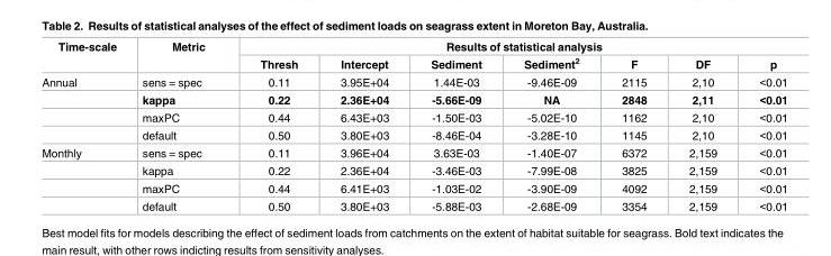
<table><thead><tr><td rowspan="2">Time-scale</td><td rowspan="2">Metric</td><td colspan="7">Results of statistical analysis</td></tr><tr><td>Thresh</td><td>Intercept</td><td>Sediment</td><td>Sediment<sup>2</sup></td><td>F</td><td>DF</td><td>p</td></tr></thead><tbody><tr><td rowspan="4">Annual</td><td>sens = spec</td><td>0.11</td><td>3.95E+04</td><td>1.44E-03</td><td>-9.46E-09</td><td>2115</td><td>2,10</td><td>&lt;0.01</td></tr><tr><td>kappa</td><td>0.22</td><td>2.36E+04</td><td>-5.66E-09</td><td>NA</td><td>2848</td><td>2,11</td><td>&lt;0.01</td></tr><tr><td>maxPC</td><td>0.44</td><td>6.43E+03</td><td>-1.50E-03</td><td>-5.02E-10</td><td>1162</td><td>2,10</td><td>&lt;0.01</td></tr><tr><td>default</td><td>0.50</td><td>3.80E+03</td><td>-8.46E-04</td><td>-3.28E-10</td><td>1145</td><td>2,10</td><td>&lt;0.01</td></tr><tr><td rowspan="4">Monthly</td><td>sens = spec</td><td>0.11</td><td>3.96E+04</td><td>3.63E-03</td><td>-1.40E-07</td><td>6372</td><td>2,159</td><td>&lt;0.01</td></tr><tr><td>kappa</td><td>0.22</td><td>2.36E+04</td><td>-3.46E-03</td><td>-7.99E-08</td><td>3825</td><td>2,159</td><td>&lt;0.01</td></tr><tr><td>maxPC</td><td>0.44</td><td>6.41E+03</td><td>-1.03E-02</td><td>-3.90E-09</td><td>4092</td><td>2,159</td><td>&lt;0.01</td></tr><tr><td>default</td><td>0.50</td><td>3.80E+03</td><td>-5.88E-03</td><td>-2.68E-09</td><td>3354</td><td>2,159</td><td>&lt;0.01</td></tr></tbody></table>